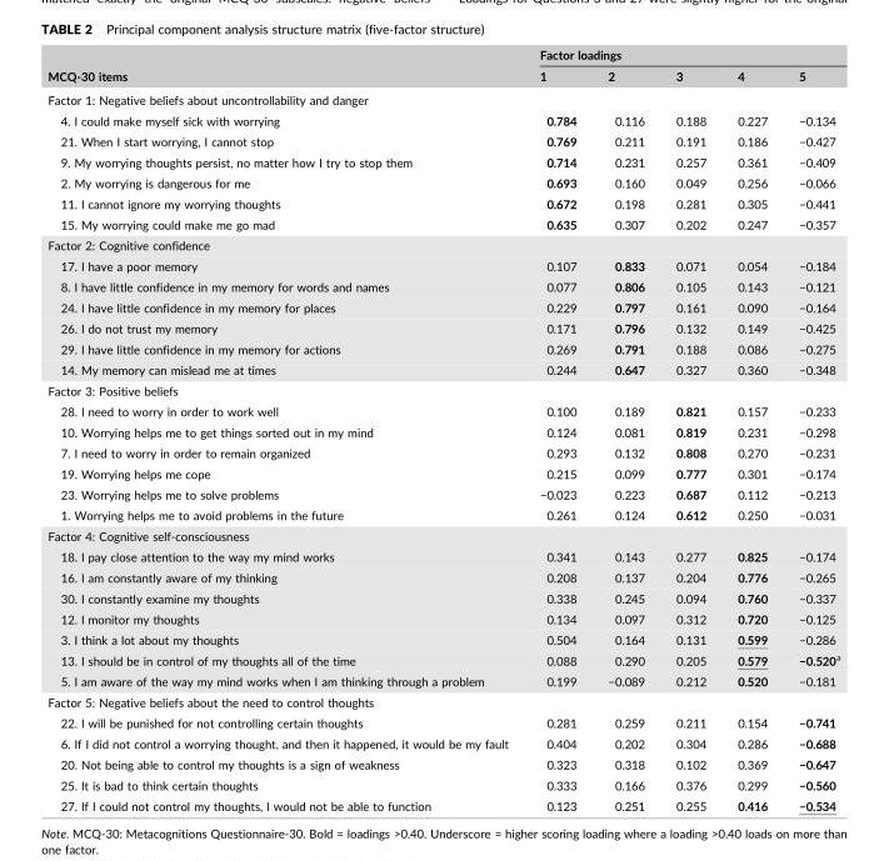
<table><thead><tr><td rowspan="2">MCQ‐30 items</td><td colspan="5">Factor loadings</td></tr><tr><td>1</td><td>2</td><td>3</td><td>4</td><td>5</td></tr></thead><tbody><tr><td colspan="6">Factor 1: Negative beliefs about uncontrollability and danger</td></tr><tr><td>4. I could make myself sick with worrying</td><td>0.784</td><td>0.116</td><td>0.188</td><td>0.227</td><td>−0.134</td></tr><tr><td>21. When I start worrying, I cannot stop</td><td>0.769</td><td>0.211</td><td>0.191</td><td>0.186</td><td>−0.427</td></tr><tr><td>9. My worrying thoughts persist, no matter how I try to stop them</td><td>0.714</td><td>0.231</td><td>0.257</td><td>0.361</td><td>−0.409</td></tr><tr><td>2. My worrying is dangerous for me</td><td>0.693</td><td>0.160</td><td>0.049</td><td>0.256</td><td>−0.066</td></tr><tr><td>11. I cannot ignore my worrying thoughts</td><td>0.672</td><td>0.198</td><td>0.281</td><td>0.305</td><td>−0.441</td></tr><tr><td>15. My worrying could make me go mad</td><td>0.635</td><td>0.307</td><td>0.202</td><td>0.247</td><td>−0.357</td></tr><tr><td colspan="6">Factor 2: Cognitive confidence</td></tr><tr><td>17. I have a poor memory</td><td>0.107</td><td>0.833</td><td>0.071</td><td>0.054</td><td>−0.184</td></tr><tr><td>8. I have little confidence in my memory for words and names</td><td>0.077</td><td>0.806</td><td>0.105</td><td>0.143</td><td>−0.121</td></tr><tr><td>24. I have little confidence in my memory for places</td><td>0.229</td><td>0.797</td><td>0.161</td><td>0.090</td><td>−0.164</td></tr><tr><td>26. I do not trust my memory</td><td>0.171</td><td>0.796</td><td>0.132</td><td>0.149</td><td>−0.425</td></tr><tr><td>29. I have little confidence in my memory for actions</td><td>0.269</td><td>0.791</td><td>0.188</td><td>0.086</td><td>−0.275</td></tr><tr><td>14. My memory can mislead me at times</td><td>0.244</td><td>0.647</td><td>0.327</td><td>0.360</td><td>−0.348</td></tr><tr><td colspan="6">Factor 3: Positive beliefs</td></tr><tr><td>28. I need to worry in order to work well</td><td>0.100</td><td>0.189</td><td>0.821</td><td>0.157</td><td>−0.233</td></tr><tr><td>10. Worrying helps me to get things sorted out in my mind</td><td>0.124</td><td>0.081</td><td>0.819</td><td>0.231</td><td>−0.298</td></tr><tr><td>7. I need to worry in order to remain organized</td><td>0.293</td><td>0.132</td><td>0.808</td><td>0.270</td><td>−0.231</td></tr><tr><td>19. Worrying helps me cope</td><td>0.215</td><td>0.099</td><td>0.777</td><td>0.301</td><td>−0.174</td></tr><tr><td>23. Worrying helps me to solve problems</td><td>−0.023</td><td>0.223</td><td>0.687</td><td>0.112</td><td>−0.213</td></tr><tr><td>1. Worrying helps me to avoid problems in the future</td><td>0.261</td><td>0.124</td><td>0.612</td><td>0.250</td><td>−0.031</td></tr><tr><td colspan="6">Factor 4: Cognitive self‐consciousness</td></tr><tr><td>18. I pay close attention to the way my mind works</td><td>0.341</td><td>0.143</td><td>0.277</td><td>0.825</td><td>−0.174</td></tr><tr><td>16. I am constantly aware of my thinking</td><td>0.208</td><td>0.137</td><td>0.204</td><td>0.776</td><td>−0.265</td></tr><tr><td>30. I constantly examine my thoughts</td><td>0.338</td><td>0.245</td><td>0.094</td><td>0.760</td><td>−0.337</td></tr><tr><td>12. I monitor my thoughts</td><td>0.134</td><td>0.097</td><td>0.312</td><td>0.720</td><td>−0.125</td></tr><tr><td>3. I think a lot about my thoughts</td><td>0.504</td><td>0.164</td><td>0.131</td><td>0.599</td><td>−0.286</td></tr><tr><td>13. I should be in control of my thoughts all of the time</td><td>0.088</td><td>0.290</td><td>0.205</td><td>0.579</td><td>−0.520a</td></tr><tr><td>5. I am aware of the way my mind works when I am thinking through a problem</td><td>0.199</td><td>−0.089</td><td>0.212</td><td>0.520</td><td>−0.181</td></tr><tr><td colspan="6">Factor 5: Negative beliefs about the need to control thoughts</td></tr><tr><td>22. I will be punished for not controlling certain thoughts</td><td>0.281</td><td>0.259</td><td>0.211</td><td>0.154</td><td>−0.741</td></tr><tr><td>6. If I did not control a worrying thought, and then it happened, it would be my fault</td><td>0.404</td><td>0.202</td><td>0.304</td><td>0.286</td><td>−0.688</td></tr><tr><td>20. Not being able to control my thoughts is a sign of weakness</td><td>0.323</td><td>0.318</td><td>0.102</td><td>0.369</td><td>−0.647</td></tr><tr><td>25. It is bad to think certain thoughts</td><td>0.333</td><td>0.166</td><td>0.376</td><td>0.299</td><td>−0.560</td></tr><tr><td>27. If I could not control my thoughts, I would not be able to function</td><td>0.123</td><td>0.251</td><td>0.255</td><td>0.416</td><td>−0.534</td></tr></tbody></table>